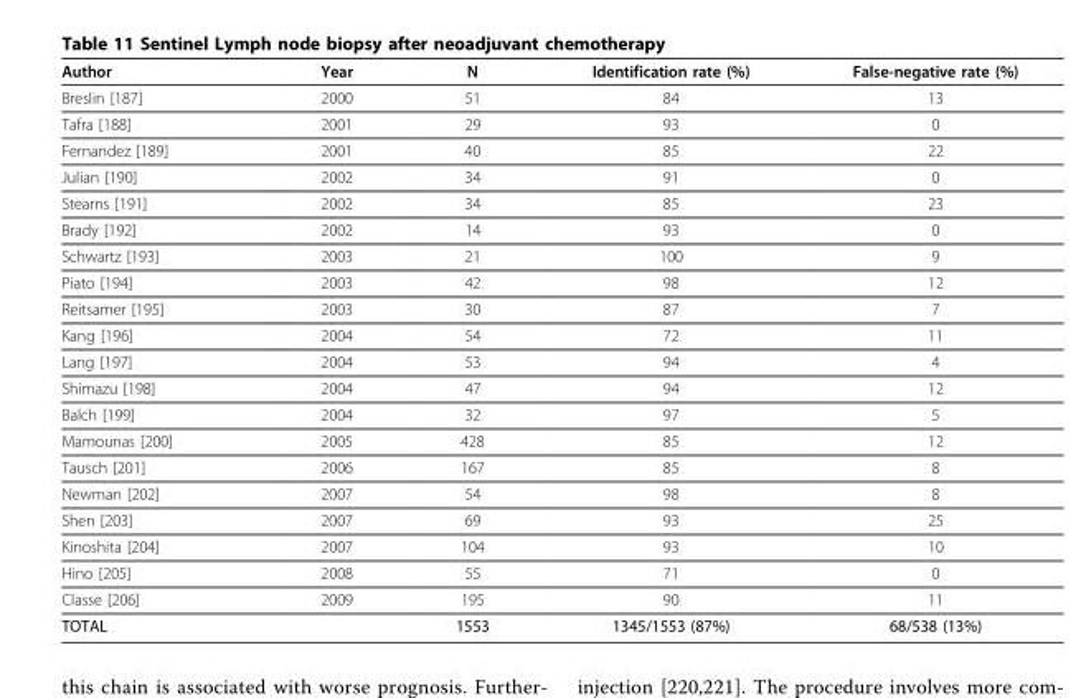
<table><thead><tr><td>Author</td><td>Year</td><td>N</td><td>Identification rate (%)</td><td>False-negative rate (%)</td></tr></thead><tbody><tr><td>Breslin [187]</td><td>2000</td><td>51</td><td>84</td><td>13</td></tr><tr><td>Tafra [188]</td><td>2001</td><td>29</td><td>93</td><td>0</td></tr><tr><td>Fernandez [189]</td><td>2001</td><td>40</td><td>85</td><td>22</td></tr><tr><td>Julian [190]</td><td>2002</td><td>34</td><td>91</td><td>0</td></tr><tr><td>Stearns [191]</td><td>2002</td><td>34</td><td>85</td><td>23</td></tr><tr><td>Brady [192]</td><td>2002</td><td>14</td><td>93</td><td>0</td></tr><tr><td>Schwartz [193]</td><td>2003</td><td>21</td><td>100</td><td>9</td></tr><tr><td>Piato [194]</td><td>2003</td><td>42</td><td>98</td><td>12</td></tr><tr><td>Reitsamer [195]</td><td>2003</td><td>30</td><td>87</td><td>7</td></tr><tr><td>Kang [196]</td><td>2004</td><td>54</td><td>72</td><td>11</td></tr><tr><td>Lang [197]</td><td>2004</td><td>53</td><td>94</td><td>4</td></tr><tr><td>Shimazu [198]</td><td>2004</td><td>47</td><td>94</td><td>12</td></tr><tr><td>Balch [199]</td><td>2004</td><td>32</td><td>97</td><td>5</td></tr><tr><td>Mamounas [200]</td><td>2005</td><td>428</td><td>85</td><td>12</td></tr><tr><td>Tausch [201]</td><td>2006</td><td>167</td><td>85</td><td>8</td></tr><tr><td>Newman [202]</td><td>2007</td><td>54</td><td>98</td><td>8</td></tr><tr><td>Shen [203]</td><td>2007</td><td>69</td><td>93</td><td>25</td></tr><tr><td>Kinoshita [204]</td><td>2007</td><td>104</td><td>93</td><td>10</td></tr><tr><td>Hino [205]</td><td>2008</td><td>55</td><td>71</td><td>0</td></tr><tr><td>Classe [206]</td><td>2009</td><td>195</td><td>90</td><td>11</td></tr><tr><td>TOTAL</td><td></td><td>1553</td><td>1345/1553 (87%)</td><td>68/538 (13%)</td></tr></tbody></table>